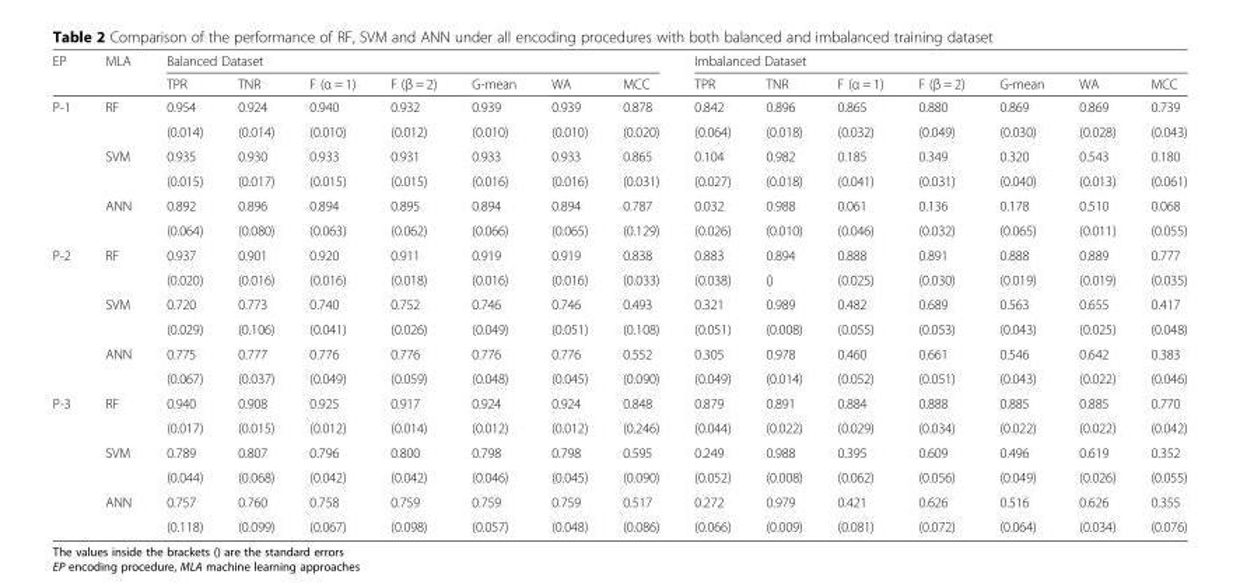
<table><thead><tr><td rowspan="2">EP</td><td rowspan="2">MLA</td><td colspan="7">Balanced Dataset</td><td colspan="7">Imbalanced Dataset</td></tr><tr><td>TPR</td><td>TNR</td><td>F (α = 1)</td><td>F (β = 2)</td><td>G-mean</td><td>WA</td><td>MCC</td><td>TPR</td><td>TNR</td><td>F (α = 1)</td><td>F (β = 2)</td><td>G-mean</td><td>WA</td><td>MCC</td></tr></thead><tbody><tr><td rowspan="6">P-1</td><td rowspan="2">RF</td><td>0.954</td><td>0.924</td><td>0.940</td><td>0.932</td><td>0.939</td><td>0.939</td><td>0.878</td><td>0.842</td><td>0.896</td><td>0.865</td><td>0.880</td><td>0.869</td><td>0.869</td><td>0.739</td></tr><tr><td>(0.014)</td><td>(0.014)</td><td>(0.010)</td><td>(0.012)</td><td>(0.010)</td><td>(0.010)</td><td>(0.020)</td><td>(0.064)</td><td>(0.018)</td><td>(0.032)</td><td>(0.049)</td><td>(0.030)</td><td>(0.028)</td><td>(0.043)</td></tr><tr><td rowspan="2">SVM</td><td>0.935</td><td>0.930</td><td>0.933</td><td>0.931</td><td>0.933</td><td>0.933</td><td>0.865</td><td>0.104</td><td>0.982</td><td>0.185</td><td>0.349</td><td>0.320</td><td>0.543</td><td>0.180</td></tr><tr><td>(0.015)</td><td>(0.017)</td><td>(0.015)</td><td>(0.015)</td><td>(0.016)</td><td>(0.016)</td><td>(0.031)</td><td>(0.027)</td><td>(0.018)</td><td>(0.041)</td><td>(0.031)</td><td>(0.040)</td><td>(0.013)</td><td>(0.061)</td></tr><tr><td rowspan="2">ANN</td><td>0.892</td><td>0.896</td><td>0.894</td><td>0.895</td><td>0.894</td><td>0.894</td><td>0.787</td><td>0.032</td><td>0.988</td><td>0.061</td><td>0.136</td><td>0.178</td><td>0.510</td><td>0.068</td></tr><tr><td>(0.064)</td><td>(0.080)</td><td>(0.063)</td><td>(0.062)</td><td>(0.066)</td><td>(0.065)</td><td>(0.129)</td><td>(0.026)</td><td>(0.010)</td><td>(0.046)</td><td>(0.032)</td><td>(0.065)</td><td>(0.011)</td><td>(0.055)</td></tr><tr><td rowspan="6">P-2</td><td rowspan="2">RF</td><td>0.937</td><td>0.901</td><td>0.920</td><td>0.911</td><td>0.919</td><td>0.919</td><td>0.838</td><td>0.883</td><td>0.894</td><td>0.888</td><td>0.891</td><td>0.888</td><td>0.889</td><td>0.777</td></tr><tr><td>(0.020)</td><td>(0.016)</td><td>(0.016)</td><td>(0.018)</td><td>(0.016)</td><td>(0.016)</td><td>(0.033)</td><td>(0.038)</td><td>()</td><td>(0.025)</td><td>(0.030)</td><td>(0.019)</td><td>(0.019)</td><td>(0.035)</td></tr><tr><td rowspan="2">SVM</td><td>0.720</td><td>0.773</td><td>0.740</td><td>0.752</td><td>0.746</td><td>0.746</td><td>0.493</td><td>0.321</td><td>0.989</td><td>0.482</td><td>0.689</td><td>0.563</td><td>0.655</td><td>0.417</td></tr><tr><td>(0.029)</td><td>(0.106)</td><td>(0.041)</td><td>(0.026)</td><td>(0.049)</td><td>(0.051)</td><td>(0.108)</td><td>(0.051)</td><td>(0.008)</td><td>(0.055)</td><td>(0.053)</td><td>(0.043)</td><td>(0.025)</td><td>(0.048)</td></tr><tr><td rowspan="2">ANN</td><td>0.775</td><td>0.777</td><td>0.776</td><td>0.776</td><td>0.776</td><td>0.776</td><td>0.552</td><td>0.305</td><td>0.978</td><td>0.460</td><td>0.661</td><td>0.546</td><td>0.642</td><td>0.383</td></tr><tr><td>(0.067)</td><td>(0.037)</td><td>(0.049)</td><td>(0.059)</td><td>(0.048)</td><td>(0.045)</td><td>(0.090)</td><td>(0.049)</td><td>(0.014)</td><td>(0.052)</td><td>(0.051)</td><td>(0.043)</td><td>(0.022)</td><td>(0.046)</td></tr><tr><td rowspan="6">P-3</td><td rowspan="2">RF</td><td>0.940</td><td>0.908</td><td>0.925</td><td>0.917</td><td>0.924</td><td>0.924</td><td>0.848</td><td>0.879</td><td>0.891</td><td>0.884</td><td>0.888</td><td>0.885</td><td>0.885</td><td>0.770</td></tr><tr><td>(0.017)</td><td>(0.015)</td><td>(0.012)</td><td>(0.014)</td><td>(0.012)</td><td>(0.012)</td><td>(0.246)</td><td>(0.044)</td><td>(0.022)</td><td>(0.029)</td><td>(0.034)</td><td>(0.022)</td><td>(0.022)</td><td>(0.042)</td></tr><tr><td rowspan="2">SVM</td><td>0.789</td><td>0.807</td><td>0.796</td><td>0.800</td><td>0.798</td><td>0.798</td><td>0.595</td><td>0.249</td><td>0.988</td><td>0.395</td><td>0.609</td><td>0.496</td><td>0.619</td><td>0.352</td></tr><tr><td>(0.044)</td><td>(0.068)</td><td>(0.042)</td><td>(0.042)</td><td>(0.046)</td><td>(0.045)</td><td>(0.090)</td><td>(0.052)</td><td>(0.008)</td><td>(0.062)</td><td>(0.056)</td><td>(0.049)</td><td>(0.026)</td><td>(0.055)</td></tr><tr><td rowspan="2">ANN</td><td>0.757</td><td>0.760</td><td>0.758</td><td>0.759</td><td>0.759</td><td>0.759</td><td>0.517</td><td>0.272</td><td>0.979</td><td>0.421</td><td>0.626</td><td>0.516</td><td>0.626</td><td>0.355</td></tr><tr><td>(0.118)</td><td>(0.099)</td><td>(0.067)</td><td>(0.098)</td><td>(0.057)</td><td>(0.048)</td><td>(0.086)</td><td>(0.066)</td><td>(0.009)</td><td>(0.081)</td><td>(0.072)</td><td>(0.064)</td><td>(0.034)</td><td>(0.076)</td></tr></tbody></table>